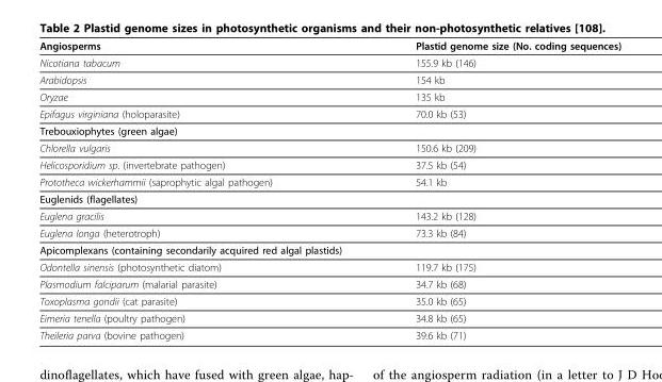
<table><thead><tr><td>Angiosperms</td><td>Plastid genome size (No. coding sequences)</td></tr></thead><tbody><tr><td>Nicotiana tabacum</td><td>155.9 kb (146)</td></tr><tr><td>Arabidopsis</td><td>154 kb</td></tr><tr><td>Oryzae</td><td>135 kb</td></tr><tr><td>Epifagus virginiana (holoparasite)</td><td>70.0 kb (53)</td></tr><tr><td colspan="2">Trebouxiophytes (green algae)</td></tr><tr><td>Chlorella vulgaris</td><td>150.6 kb (209)</td></tr><tr><td>Helicosporidium sp. (invertebrate pathogen)</td><td>37.5 kb (54)</td></tr><tr><td>Prototheca wickerhammii (saprophytic algal pathogen)</td><td>54.1 kb</td></tr><tr><td colspan="2">Euglenids (flagellates)</td></tr><tr><td>Euglena gracilis</td><td>143.2 kb (128)</td></tr><tr><td>Euglena longa (heterotroph)</td><td>73.3 kb (84)</td></tr><tr><td colspan="2">Apicomplexans (containing secondarily acquired red algal plastids)</td></tr><tr><td>Odontella sinensis (photosynthetic diatom)</td><td>119.7 kb (175)</td></tr><tr><td>Plasmodium falciparum (malarial parasite)</td><td>34.7 kb (68)</td></tr><tr><td>Toxoplasma gondii (cat parasite)</td><td>35.0 kb (65)</td></tr><tr><td>Eimeria tenella (poultry pathogen)</td><td>34.8 kb (65)</td></tr><tr><td>Theileria parva (bovine pathogen)</td><td>39.6 kb (71)</td></tr></tbody></table>